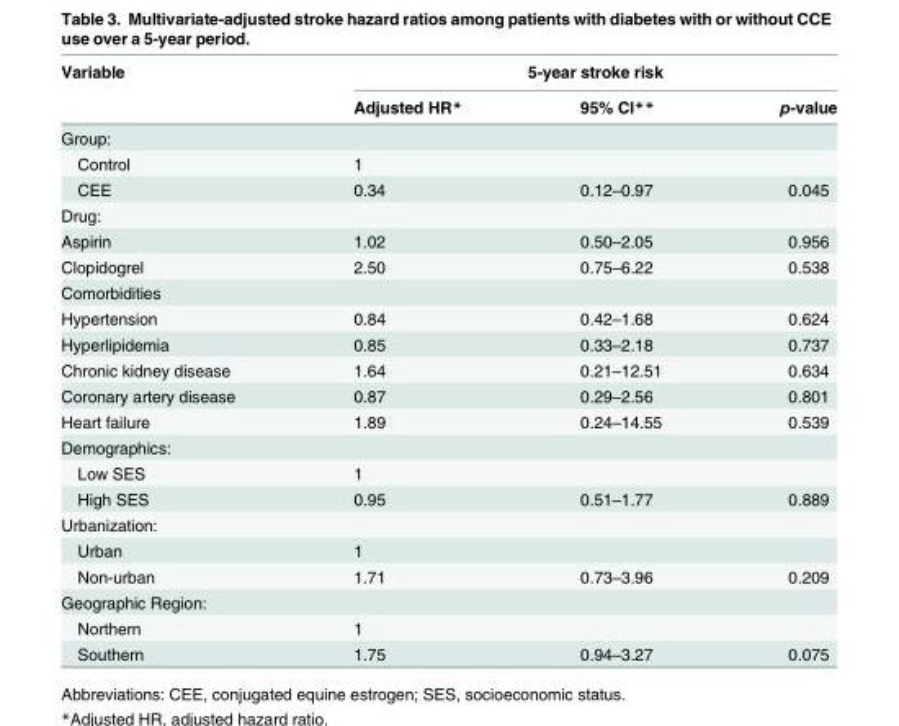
<table><thead><tr><td rowspan="2">Variable</td><td colspan="3">5-year stroke risk</td></tr><tr><td>Adjusted HR*</td><td>95% CI**</td><td>p-value</td></tr></thead><tbody><tr><td colspan="4">Group:</td></tr><tr><td>Control</td><td>1</td><td></td><td></td></tr><tr><td>CEE</td><td>0.34</td><td>0.12–0.97</td><td>0.045</td></tr><tr><td colspan="4">Drug:</td></tr><tr><td>Aspirin</td><td>1.02</td><td>0.50–2.05</td><td>0.956</td></tr><tr><td>Clopidogrel</td><td>2.50</td><td>0.75–6.22</td><td>0.538</td></tr><tr><td colspan="4">Comorbidities</td></tr><tr><td>Hypertension</td><td>0.84</td><td>0.42–1.68</td><td>0.624</td></tr><tr><td>Hyperlipidemia</td><td>0.85</td><td>0.33–2.18</td><td>0.737</td></tr><tr><td>Chronic kidney disease</td><td>1.64</td><td>0.21–12.51</td><td>0.634</td></tr><tr><td>Coronary artery disease</td><td>0.87</td><td>0.29–2.56</td><td>0.801</td></tr><tr><td>Heart failure</td><td>1.89</td><td>0.24–14.55</td><td>0.539</td></tr><tr><td colspan="4">Demographics:</td></tr><tr><td>Low SES</td><td>1</td><td></td><td></td></tr><tr><td>High SES</td><td>0.95</td><td>0.51–1.77</td><td>0.889</td></tr><tr><td colspan="4">Urbanization:</td></tr><tr><td>Urban</td><td>1</td><td></td><td></td></tr><tr><td>Non-urban</td><td>1.71</td><td>0.73–3.96</td><td>0.209</td></tr><tr><td colspan="4">Geographic Region:</td></tr><tr><td>Northern</td><td>1</td><td></td><td></td></tr><tr><td>Southern</td><td>1.75</td><td>0.94–3.27</td><td>0.075</td></tr></tbody></table>